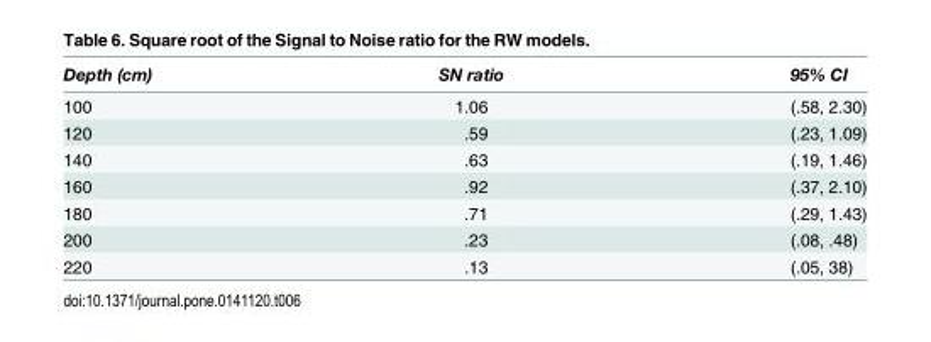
<table><thead><tr><td>Depth (cm)</td><td>SN ratio</td><td>95% CI</td></tr></thead><tbody><tr><td>100</td><td>1.06</td><td>(.58, 2.30)</td></tr><tr><td>120</td><td>.59</td><td>(.23, 1.09)</td></tr><tr><td>140</td><td>.63</td><td>(.19, 1.46)</td></tr><tr><td>160</td><td>.92</td><td>(.37, 2.10)</td></tr><tr><td>180</td><td>.71</td><td>(.29, 1.43)</td></tr><tr><td>200</td><td>.23</td><td>(.08, .48)</td></tr><tr><td>220</td><td>.13</td><td>(.05, 38)</td></tr></tbody></table>